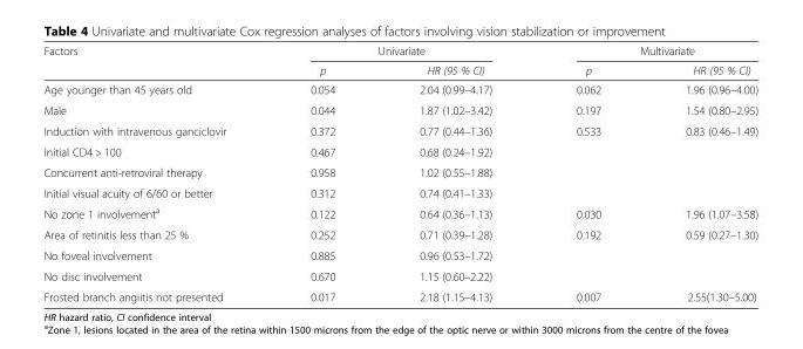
<table><thead><tr><td rowspan="2">Factors</td><td colspan="2">Univariate</td><td colspan="2">Multivariate</td></tr><tr><td>p</td><td>HR (95 % CI)</td><td>p</td><td>HR (95 % CI)</td></tr></thead><tbody><tr><td>Age younger than 45 years old</td><td>0.054</td><td>2.04 (0.99–4.17)</td><td>0.062</td><td>1.96 (0.96–4.00)</td></tr><tr><td>Male</td><td>0.044</td><td>1.87 (1.02–3.42)</td><td>0.197</td><td>1.54 (0.80–2.95)</td></tr><tr><td>Induction with intravenous ganciclovir</td><td>0.372</td><td>0.77 (0.44–1.36)</td><td>0.533</td><td>0.83 (0.46–1.49)</td></tr><tr><td>Initial CD4 &gt; 100</td><td>0.467</td><td>0.68 (0.24–1.92)</td><td></td><td></td></tr><tr><td>Concurrent anti-retroviral therapy</td><td>0.958</td><td>1.02 (0.55–1.88)</td><td></td><td></td></tr><tr><td>Initial visual acuity of 6/60 or better</td><td>0.312</td><td>0.74 (0.41–1.33)</td><td></td><td></td></tr><tr><td>No zone 1 involvement<sup>a</sup></td><td>0.122</td><td>0.64 (0.36–1.13)</td><td>0.030</td><td>1.96 (1.07–3.58)</td></tr><tr><td>Area of retinitis less than 25 %</td><td>0.252</td><td>0.71 (0.39–1.28)</td><td>0.192</td><td>0.59 (0.27–1.30)</td></tr><tr><td>No foveal involvement</td><td>0.885</td><td>0.96 (0.53–1.72)</td><td></td><td></td></tr><tr><td>No disc involvement</td><td>0.670</td><td>1.15 (0.60–2.22)</td><td></td><td></td></tr><tr><td>Frosted branch angiitis not presented</td><td>0.017</td><td>2.18 (1.15–4.13)</td><td>0.007</td><td>2.55(1.30–5.00)</td></tr></tbody></table>